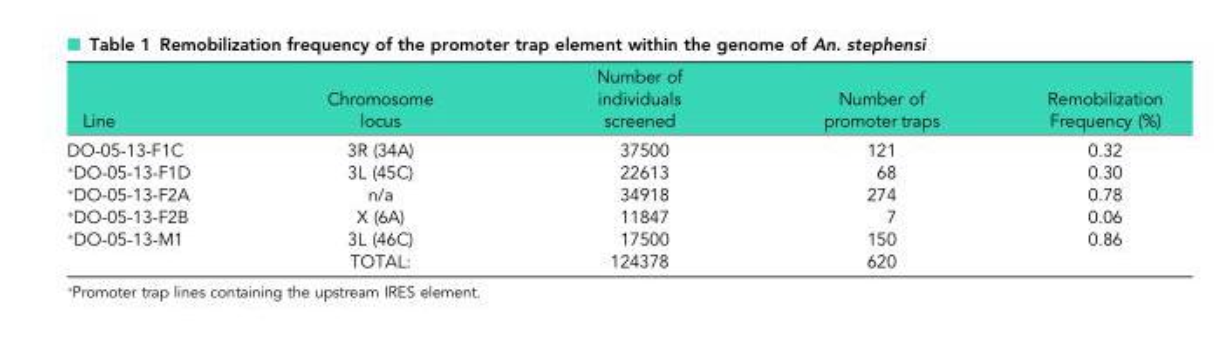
<table><thead><tr><td>Line</td><td>Chromosome locus</td><td>Number of individuals screened</td><td>Number of promoter traps</td><td>Remobilization Frequency (%)</td></tr></thead><tbody><tr><td>DO-05-13-F1C</td><td>3R (34A)</td><td>37500</td><td>121</td><td>0.32</td></tr><tr><td>*DO-05-13-F1D</td><td>3L (45C)</td><td>22613</td><td>68</td><td>0.30</td></tr><tr><td>*DO-05-13-F2A</td><td>n/a</td><td>34918</td><td>274</td><td>0.78</td></tr><tr><td>*DO-05-13-F2B</td><td>X (6A)</td><td>11847</td><td>7</td><td>0.06</td></tr><tr><td rowspan="2">*DO-05-13-M1</td><td>3L (46C)</td><td>17500</td><td>150</td><td>0.86</td></tr><tr><td>TOTAL:</td><td>124378</td><td>620</td><td></td></tr></tbody></table>